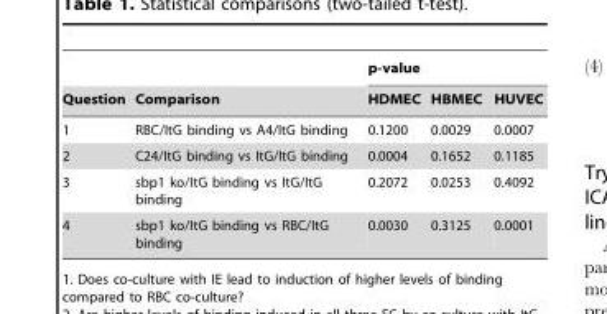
<table><thead><tr><td rowspan="2">Question</td><td rowspan="2">Comparison</td><td colspan="3">p-value</td></tr><tr><td>HDMEC</td><td>HBMEC</td><td>HUVEC</td></tr></thead><tbody><tr><td>1</td><td>RBC/ItG binding vs A4/ItG binding</td><td>0.1200</td><td>0.0029</td><td>0.0007</td></tr><tr><td>2</td><td>C24/ItG binding vs ItG/ItG binding</td><td>0.0004</td><td>0.1652</td><td>0.1185</td></tr><tr><td>3</td><td>sbp1 ko/ItG binding vs ItG/ItG binding</td><td>0.2072</td><td>0.0253</td><td>0.4092</td></tr><tr><td>4</td><td>sbp1 ko/ItG binding vs RBC/ItG binding</td><td>0.0030</td><td>0.3125</td><td>0.0001</td></tr></tbody></table>